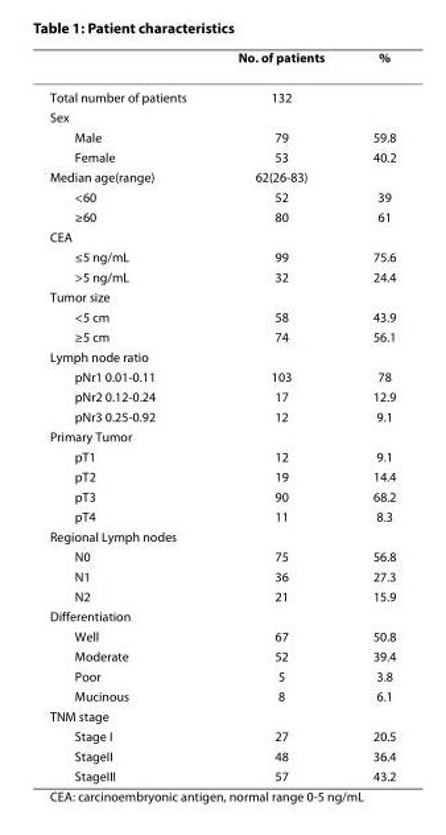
<table><thead><tr><td></td><td>No. of patients</td><td>%</td></tr></thead><tbody><tr><td>Total number of patients</td><td>132</td><td></td></tr><tr><td colspan="3">Sex</td></tr><tr><td>Male</td><td>79</td><td>59.8</td></tr><tr><td>Female</td><td>53</td><td>40.2</td></tr><tr><td>Median age(range)</td><td>62(26-83)</td><td></td></tr><tr><td>&lt;60</td><td>52</td><td>39</td></tr><tr><td>≥60</td><td>80</td><td>61</td></tr><tr><td colspan="3">CEA</td></tr><tr><td>≤5 ng/mL</td><td>99</td><td>75.6</td></tr><tr><td>&gt;5 ng/mL</td><td>32</td><td>24.4</td></tr><tr><td colspan="3">Tumor size</td></tr><tr><td>&lt;5 cm</td><td>58</td><td>43.9</td></tr><tr><td>≥5 cm</td><td>74</td><td>56.1</td></tr><tr><td colspan="3">Lymph node ratio</td></tr><tr><td>pNr1 0.01-0.11</td><td>103</td><td>78</td></tr><tr><td>pNr2 0.12-0.24</td><td>17</td><td>12.9</td></tr><tr><td>pNr3 0.25-0.92</td><td>12</td><td>9.1</td></tr><tr><td colspan="3">Primary Tumor</td></tr><tr><td>pT1</td><td>12</td><td>9.1</td></tr><tr><td>pT2</td><td>19</td><td>14.4</td></tr><tr><td>pT3</td><td>90</td><td>68.2</td></tr><tr><td>pT4</td><td>11</td><td>8.3</td></tr><tr><td colspan="3">Regional Lymph nodes</td></tr><tr><td>N0</td><td>75</td><td>56.8</td></tr><tr><td>N1</td><td>36</td><td>27.3</td></tr><tr><td>N2</td><td>21</td><td>15.9</td></tr><tr><td colspan="3">Differentiation</td></tr><tr><td>Well</td><td>67</td><td>50.8</td></tr><tr><td>Moderate</td><td>52</td><td>39.4</td></tr><tr><td>Poor</td><td>5</td><td>3.8</td></tr><tr><td>Mucinous</td><td>8</td><td>6.1</td></tr><tr><td colspan="3">TNM stage</td></tr><tr><td>Stage I</td><td>27</td><td>20.5</td></tr><tr><td>StageII</td><td>48</td><td>36.4</td></tr><tr><td>StageIII</td><td>57</td><td>43.2</td></tr></tbody></table>